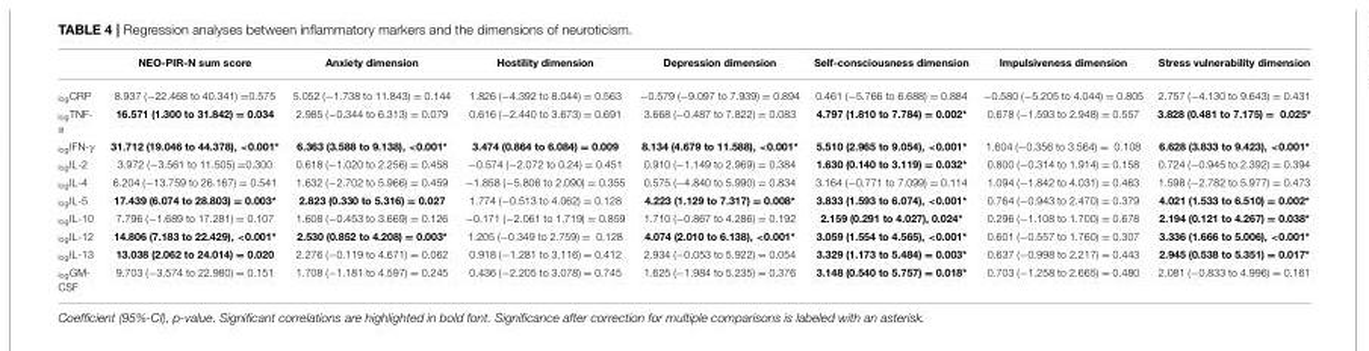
<table><thead><tr><td></td><td>NEO-PIR-N sum score</td><td>Anxiety dimension</td><td>Hostility dimension</td><td>Depression dimension</td><td>Self-consciousness dimension</td><td>Impulsiveness dimension</td><td>Stress vulnerability dimension</td></tr></thead><tbody><tr><td><sub>log</sub>CRP</td><td>8.937 (−22.468 to 40.341) =0.575</td><td>5.052 (−1.738 to 11.843) = 0.144</td><td>1.826 (−4.392 to 8.044) = 0.563</td><td>−0.579 (−9.097 to 7.939) = 0.894</td><td>0.461 (−5.766 to 6.688) = 0.884</td><td>−0.580 (−5.205 to 4.044) = 0.805</td><td>2.757 (−4.130 to 9.643) = 0.431</td></tr><tr><td><sub>log</sub>TNF- α</td><td>16.571 (1.300 to 31.842) = 0.034</td><td>2.985 (−0.344 to 6.313) = 0.079</td><td>0.616 (−2.440 to 3.673) = 0.691</td><td>3.668 (−0.487 to 7.822) = 0.083</td><td>4.797 (1.810 to 7.784) = 0.002*</td><td>0.678 (−1.593 to 2.948) = 0.557</td><td>3.828 (0.481 to 7.175) = 0.025*</td></tr><tr><td><sub>log</sub>IFN-γ</td><td>31.712 (19.046 to 44.378), &lt;0.001*</td><td>6.363 (3.588 to 9.138), &lt;0.001*</td><td>3.474 (0.864 to 6.084) = 0.009</td><td>8.134 (4.679 to 11.588), &lt;0.001*</td><td>5.510 (2.965 to 9.054), &lt;0.001*</td><td>1.604 (−0.356 to 3.564) = 0.108</td><td>6.628 (3.833 to 9.423), &lt;0.001*</td></tr><tr><td><sub>log</sub>IL-2</td><td>3.972 (−3.561 to 11.505) =0.300</td><td>0.618 (−1.020 to 2.256) = 0.458</td><td>−0.574 (−2.072 to 0.24) = 0.451</td><td>0.910 (−1.149 to 2.969) = 0.384</td><td>1.630 (0.140 to 3.119) = 0.032*</td><td>0.800 (−0.314 to 1.914) = 0.158</td><td>0.724 (−0.945 to 2.392) = 0.394</td></tr><tr><td><sub>log</sub>IL-4</td><td>6.204 (−13.759 to 26.167) = 0.541</td><td>1.632 (−2.702 to 5.966) = 0.459</td><td>−1.858 (−5.806 to 2.090) = 0.355</td><td>0.575 (−4.840 to 5.990) = 0.834</td><td>3.164 (−0.771 to 7.099) = 0.114</td><td>1.094 (−1.842 to 4.031) = 0.463</td><td>1.598 (−2.782 to 5.977) = 0.473</td></tr><tr><td><sub>log</sub>IL-5</td><td>17.439 (6.074 to 28.803) = 0.003*</td><td>2.823 (0.330 to 5.316) = 0.027</td><td>1.774 (−0.513 to 4.062) = 0.128</td><td>4.223 (1.129 to 7.317) = 0.008*</td><td>3.833 (1.593 to 6.074), &lt;0.001*</td><td>0.764 (−0.943 to 2.470) = 0.379</td><td>4.021 (1.533 to 6.510) = 0.002*</td></tr><tr><td><sub>log</sub>IL-10</td><td>7.796 (−1.689 to 17.281) = 0.107</td><td>1.608 (−0.453 to 3.669) = 0.126</td><td>−0.171 (−2.061 to 1.719) = 0.859</td><td>1.710 (−0.867 to 4.286) = 0.192</td><td>2.159 (0.291 to 4.027), 0.024*</td><td>0.296 (−1.108 to 1.700) = 0.678</td><td>2.194 (0.121 to 4.267) = 0.038*</td></tr><tr><td><sub>log</sub>IL-12</td><td>14.806 (7.183 to 22.429), &lt;0.001*</td><td>2.530 (0.852 to 4.208) = 0.003*</td><td>1.205 (−0.349 to 2.759) = 0.128</td><td>4.074 (2.010 to 6.138), &lt;0.001*</td><td>3.059 (1.554 to 4.565), &lt;0.001*</td><td>0.601 (−0.557 to 1.760) = 0.307</td><td>3.336 (1.666 to 5.006), &lt;0.001*</td></tr><tr><td><sub>log</sub>IL-13</td><td>13.038 (2.062 to 24.014) = 0.020</td><td>2.276 (−0.119 to 4.671) = 0.062</td><td>0.918 (−1.281 to 3.116) = 0.412</td><td>2.934 (−0.053 to 5.922) = 0.054</td><td>3.329 (1.173 to 5.484) = 0.003*</td><td>0.637 (−0.998 to 2.217) = 0.443</td><td>2.945 (0.538 to 5.351) = 0.017*</td></tr><tr><td><sub>log</sub>GM- CSF</td><td>9.703 (−3.574 to 22.980) = 0.151</td><td>1.708 (−1.181 to 4.597) = 0.245</td><td>0.436 (−2.205 to 3.078) = 0.745</td><td>1.625 (−1.984 to 5.235) = 0.376</td><td>3.148 (0.540 to 5.757) = 0.018*</td><td>0.703 (−1.258 to 2.665) = 0.480</td><td>2.081 (−0.833 to 4.996) = 0.161</td></tr></tbody></table>